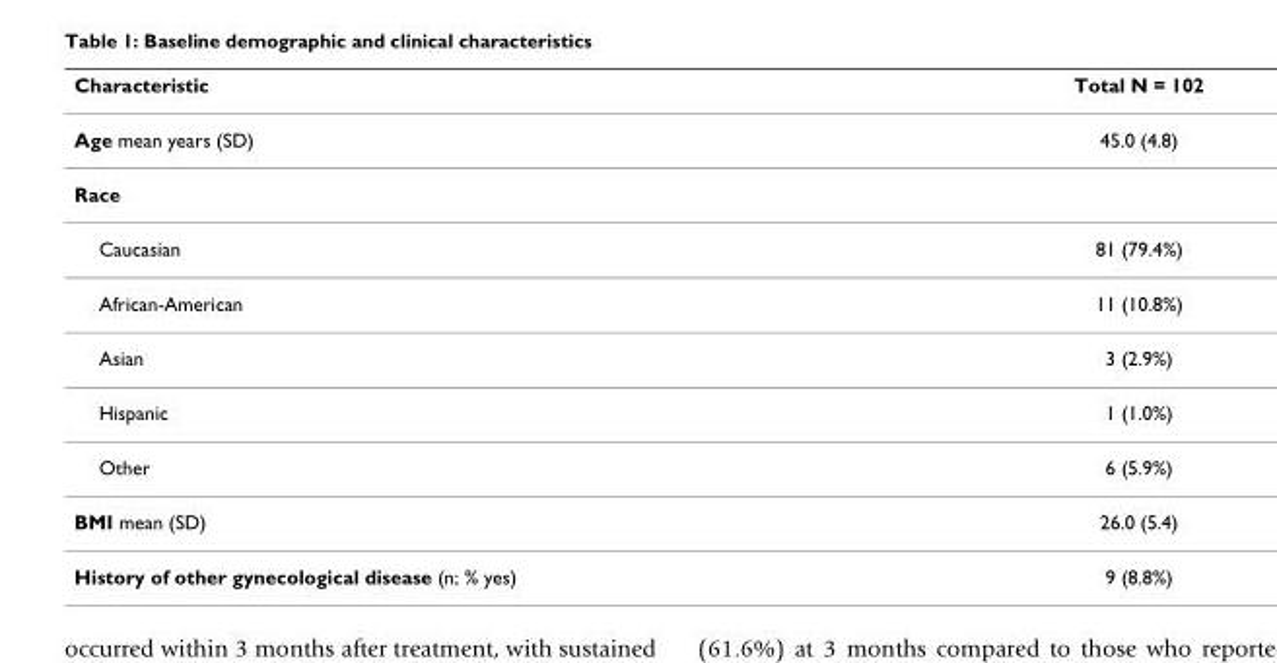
<table><thead><tr><td>Characteristic</td><td>Total N = 102</td></tr></thead><tbody><tr><td>Age mean years (SD)</td><td>45.0 (4.8)</td></tr><tr><td colspan="2">Race</td></tr><tr><td>Caucasian</td><td>81 (79.4%)</td></tr><tr><td>African-American</td><td>11 (10.8%)</td></tr><tr><td>Asian</td><td>3 (2.9%)</td></tr><tr><td>Hispanic</td><td>1 (1.0%)</td></tr><tr><td>Other</td><td>6 (5.9%)</td></tr><tr><td>BMI mean (SD)</td><td>26.0 (5.4)</td></tr><tr><td>History of other gynecological disease (n; % yes)</td><td>9 (8.8%)</td></tr></tbody></table>